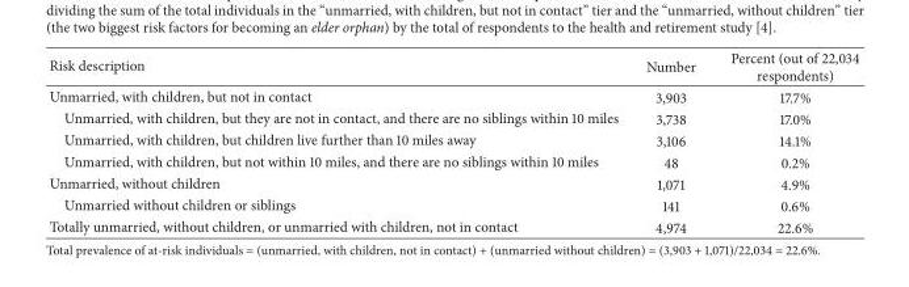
<table><thead><tr><td>Risk description</td><td>Number</td><td>Percent (out of 22,034 respondents)</td></tr></thead><tbody><tr><td>Unmarried, with children, but not in contact</td><td>3,903</td><td>17.7%</td></tr><tr><td>Unmarried, with children, but they are not in contact, and there are no siblings within 10 miles</td><td>3,738</td><td>17.0%</td></tr><tr><td>Unmarried, with children, but children live further than 10 miles away</td><td>3,106</td><td>14.1%</td></tr><tr><td>Unmarried, with children, but not within 10 miles, and there are no siblings within 10 miles</td><td>48</td><td>0.2%</td></tr><tr><td>Unmarried, without children</td><td>1,071</td><td>4.9%</td></tr><tr><td>Unmarried without children or siblings</td><td>141</td><td>0.6%</td></tr><tr><td>Totally unmarried, without children, or unmarried with children, not in contact</td><td>4,974</td><td>22.6%</td></tr></tbody></table>